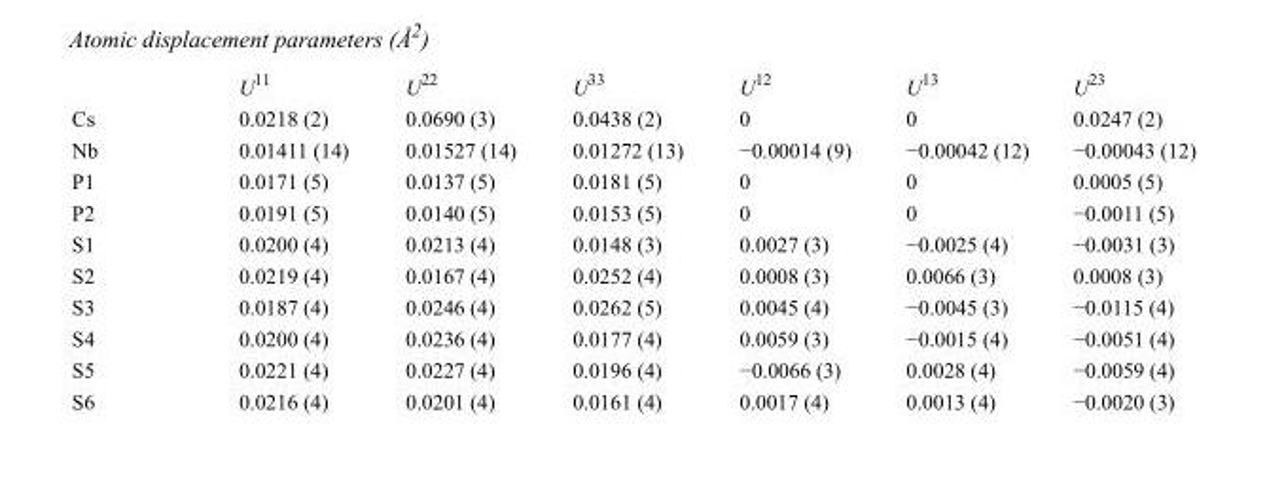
<table><thead><tr><td></td><td>U<sup>11</sup></td><td>U<sup>22</sup></td><td>U<sup>33</sup></td><td>U<sup>12</sup></td><td>U<sup>13</sup></td><td>U<sup>23</sup></td></tr></thead><tbody><tr><td>Cs</td><td>0.0218 (2)</td><td>0.0690 (3)</td><td>0.0438 (2)</td><td>0</td><td>0</td><td>0.0247 (2)</td></tr><tr><td>Nb</td><td>0.01411 (14)</td><td>0.01527 (14)</td><td>0.01272 (13)</td><td>−0.00014 (9)</td><td>−0.00042 (12)</td><td>−0.00043 (12)</td></tr><tr><td>P1</td><td>0.0171 (5)</td><td>0.0137 (5)</td><td>0.0181 (5)</td><td>0</td><td>0</td><td>0.0005 (5)</td></tr><tr><td>P2</td><td>0.0191 (5)</td><td>0.0140 (5)</td><td>0.0153 (5)</td><td>0</td><td>0</td><td>−0.0011 (5)</td></tr><tr><td>S1</td><td>0.0200 (4)</td><td>0.0213 (4)</td><td>0.0148 (3)</td><td>0.0027 (3)</td><td>−0.0025 (4)</td><td>−0.0031 (3)</td></tr><tr><td>S2</td><td>0.0219 (4)</td><td>0.0167 (4)</td><td>0.0252 (4)</td><td>0.0008 (3)</td><td>0.0066 (3)</td><td>0.0008 (3)</td></tr><tr><td>S3</td><td>0.0187 (4)</td><td>0.0246 (4)</td><td>0.0262 (5)</td><td>0.0045 (4)</td><td>−0.0045 (3)</td><td>−0.0115 (4)</td></tr><tr><td>S4</td><td>0.0200 (4)</td><td>0.0236 (4)</td><td>0.0177 (4)</td><td>0.0059 (3)</td><td>−0.0015 (4)</td><td>−0.0051 (4)</td></tr><tr><td>S5</td><td>0.0221 (4)</td><td>0.0227 (4)</td><td>0.0196 (4)</td><td>−0.0066 (3)</td><td>0.0028 (4)</td><td>−0.0059 (4)</td></tr><tr><td>S6</td><td>0.0216 (4)</td><td>0.0201 (4)</td><td>0.0161 (4)</td><td>0.0017 (4)</td><td>0.0013 (4)</td><td>−0.0020 (3)</td></tr></tbody></table>